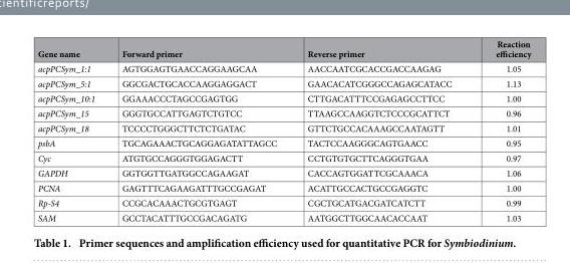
<table><thead><tr><td>Gene name</td><td>Forward primer</td><td>Reverse primer</td><td>Reaction efficiency</td></tr></thead><tbody><tr><td>acpPCSym_1:1</td><td>AGTGGAGTGAACCAGGAAGCAA</td><td>AACCAATCGCACCGACCAAGAG</td><td>1.05</td></tr><tr><td>acpPCSym_5:1</td><td>GGCGACTGCACCAAGGAGGACT</td><td>GAACACATCGGGCCAGAGCATACC</td><td>1.13</td></tr><tr><td>acpPCSym_10:1</td><td>GGAAACCCTAGCCGAGTGG</td><td>CTTGACATTTCCGAGAGCCTTCC</td><td>1.00</td></tr><tr><td>acpPCSym_15</td><td>GGGTGCCATTGAGTCTGTCC</td><td>TTAAGCCAAGGTCTCCCGCATTCT</td><td>0.96</td></tr><tr><td>acpPCSym_18</td><td>TCCCCTGGGCTTCTCTGATAC</td><td>GTTCTGCCACAAAGCCAATAGTT</td><td>1.01</td></tr><tr><td>psbA</td><td>TGCAGAAACTGCAGGAGATATTAGCC</td><td>TACTCCAAGGGCAGTGAACC</td><td>0.95</td></tr><tr><td>Cyc</td><td>ATGTGCCAGGGTGGAGACTT</td><td>CCTGTGTGCTTCAGGGTGAA</td><td>0.97</td></tr><tr><td>GAPDH</td><td>GGTGGTTGATGGCCAGAAGAT</td><td>CACCAGTGGATTCGCAAACA</td><td>1.06</td></tr><tr><td>PCNA</td><td>GAGTTTCAGAAGATTTGCCGAGAT</td><td>ACATTGCCACTGCCGAGGTC</td><td>1.00</td></tr><tr><td>Rp-S4</td><td>CCGCACAAACTGCGTGAGT</td><td>CGCTGCATGACGATCATCTT</td><td>0.99</td></tr><tr><td>SAM</td><td>GCCTACATTTGCCGACAGATG</td><td>AATGGCTTGGCAACACCAAT</td><td>1.03</td></tr></tbody></table>